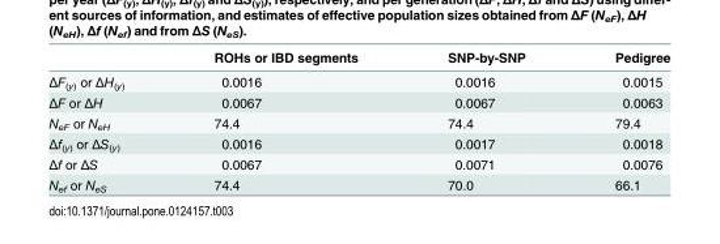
<table><thead><tr><td></td><td>ROHs or IBD segments</td><td>SNP-by-SNP</td><td>Pedigree</td></tr></thead><tbody><tr><td>ΔF<sub>(y)</sub> or ΔH<sub>(y)</sub></td><td>0.0016</td><td>0.0016</td><td>0.0015</td></tr><tr><td>ΔF or ΔH</td><td>0.0067</td><td>0.0067</td><td>0.0063</td></tr><tr><td>N<sub>eF</sub> or N<sub>eH</sub></td><td>74.4</td><td>74.4</td><td>79.4</td></tr><tr><td>Δf<sub>(y)</sub> or ΔS<sub>(y)</sub></td><td>0.0016</td><td>0.0017</td><td>0.0018</td></tr><tr><td>Δf or ΔS</td><td>0.0067</td><td>0.0071</td><td>0.0076</td></tr><tr><td>N<sub>ef</sub> or N<sub>eS</sub></td><td>74.4</td><td>70.0</td><td>66.1</td></tr></tbody></table>